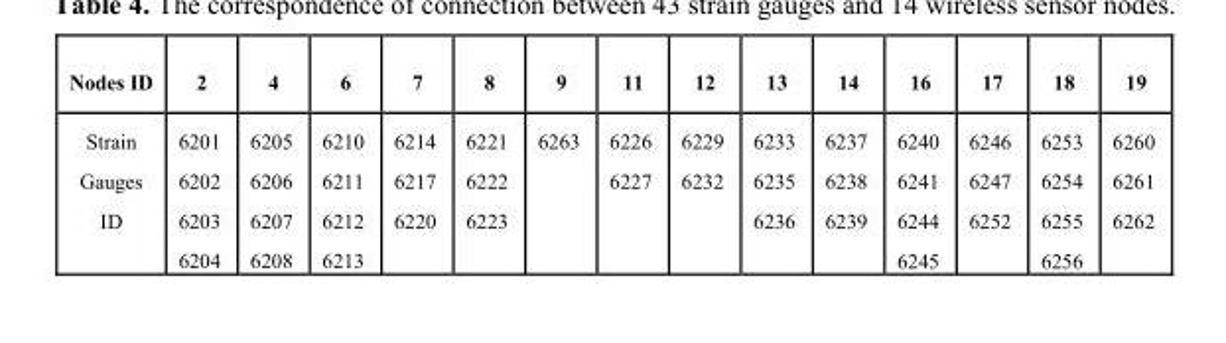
<table><thead><tr><td>Nodes ID</td><td>2</td><td>4</td><td>6</td><td>7</td><td>8</td><td>9</td><td>11</td><td>12</td><td>13</td><td>14</td><td>16</td><td>17</td><td>18</td><td>19</td></tr></thead><tbody><tr><td>Strain Gauges ID</td><td>6201 6202 6203 6204</td><td>6205 6206 6207 6208</td><td>6210 6211 6212 6213</td><td>6214 6217 6220</td><td>6221 6222 6223</td><td>6263</td><td>6226 6227</td><td>6229 6232</td><td>6233 6235 6236</td><td>6237 6238 6239</td><td>6240 6241 6244 6245</td><td>6246 6247 6252</td><td>6253 6254 6255 6256</td><td>6260 6261 6262</td></tr></tbody></table>